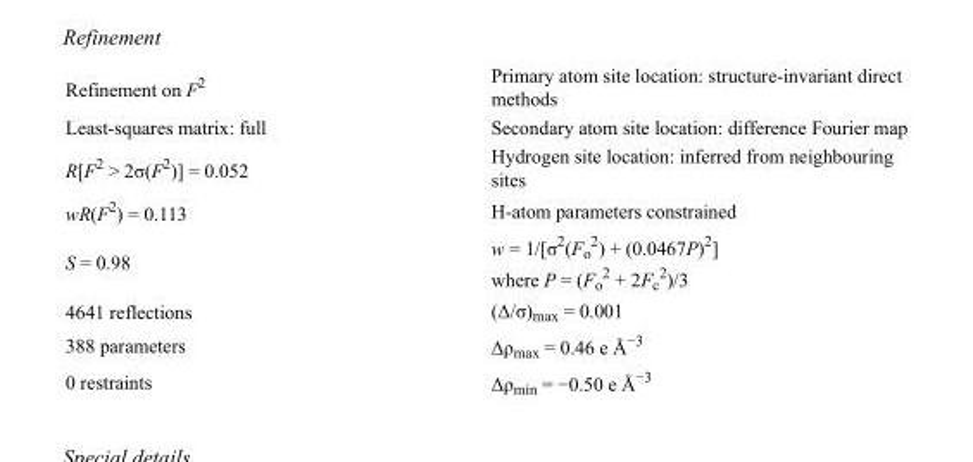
<table><tbody><tr><td>Refinement on F<sup>2</sup></td><td>Primary atom site location: structure-invariant direct methods</td></tr><tr><td>Least-squares matrix: full</td><td>Secondary atom site location: difference Fourier map</td></tr><tr><td>R[F<sup>2</sup> &gt; 2σ(F<sup>2</sup>)] = 0.052</td><td>Hydrogen site location: inferred from neighbouring sites</td></tr><tr><td>wR(F<sup>2</sup>) = 0.113</td><td>H-atom parameters constrained</td></tr><tr><td>S = 0.98</td><td>w = 1/[σ<sup>2</sup>(F<sub>o</sub> <sup>2</sup>) + (0.0467P)<sup>2</sup>] where P = (F<sub>o</sub> <sup>2</sup> + 2F<sub>c</sub> <sup>2</sup>)/3</td></tr><tr><td>4641 reflections</td><td>(Δ/σ)<sub>max</sub> = 0.001</td></tr><tr><td>388 parameters</td><td>Δρ<sub>max</sub> = 0.46 e Å<sup>−3</sup></td></tr><tr><td>0 restraints</td><td>Δρ<sub>min</sub> = −0.50 e Å<sup>−3</sup></td></tr></tbody></table>